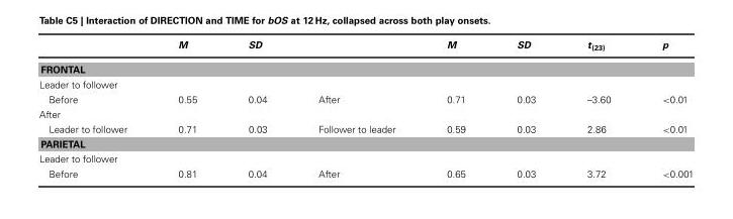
<table><thead><tr><td></td><td>M</td><td>SD</td><td></td><td>M</td><td>SD</td><td>t<sub>(23)</sub></td><td>p</td></tr></thead><tbody><tr><td colspan="8">FRONTAL</td></tr><tr><td colspan="8">Leader to follower</td></tr><tr><td>Before</td><td>0.55</td><td>0.04</td><td>After</td><td>0.71</td><td>0.03</td><td>–3.60</td><td>&lt;0.01</td></tr><tr><td colspan="8">After</td></tr><tr><td>Leader to follower</td><td>0.71</td><td>0.03</td><td>Follower to leader</td><td>0.59</td><td>0.03</td><td>2.86</td><td>&lt;0.01</td></tr><tr><td colspan="8">PARIETAL</td></tr><tr><td colspan="8">Leader to follower</td></tr><tr><td>Before</td><td>0.81</td><td>0.04</td><td>After</td><td>0.65</td><td>0.03</td><td>3.72</td><td>&lt;0.001</td></tr></tbody></table>